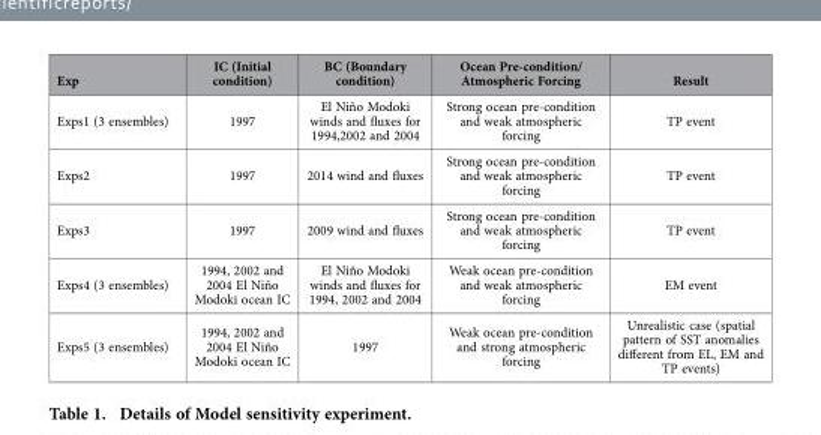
<table><thead><tr><td>Exp</td><td>IC (Initial condition)</td><td>BC (Boundary condition)</td><td>Ocean Pre-condition/ Atmospheric Forcing</td><td>Result</td></tr></thead><tbody><tr><td>Exps1 (3 ensembles)</td><td>1997</td><td>El Niño Modoki winds and fluxes for 1994,2002 and 2004</td><td>Strong ocean pre-condition and weak atmospheric forcing</td><td>TP event</td></tr><tr><td>Exps2</td><td>1997</td><td>2014 wind and fluxes</td><td>Strong ocean pre-condition and weak atmospheric forcing</td><td>TP event</td></tr><tr><td>Exps3</td><td>1997</td><td>2009 wind and fluxes</td><td>Strong ocean pre-condition and weak atmospheric forcing</td><td>TP event</td></tr><tr><td>Exps4 (3 ensembles)</td><td>1994, 2002 and 2004 El Niño Modoki ocean IC</td><td>El Niño Modoki winds and fluxes for 1994, 2002 and 2004</td><td>Weak ocean pre-condition and weak atmospheric forcing</td><td>EM event</td></tr><tr><td>Exps5 (3 ensembles)</td><td>1994, 2002 and 2004 El Niño Modoki ocean IC</td><td>1997</td><td>Weak ocean pre-condition and strong atmospheric forcing</td><td>Unrealistic case (spatial pattern of SST anomalies different from EL, EM and TP events)</td></tr></tbody></table>